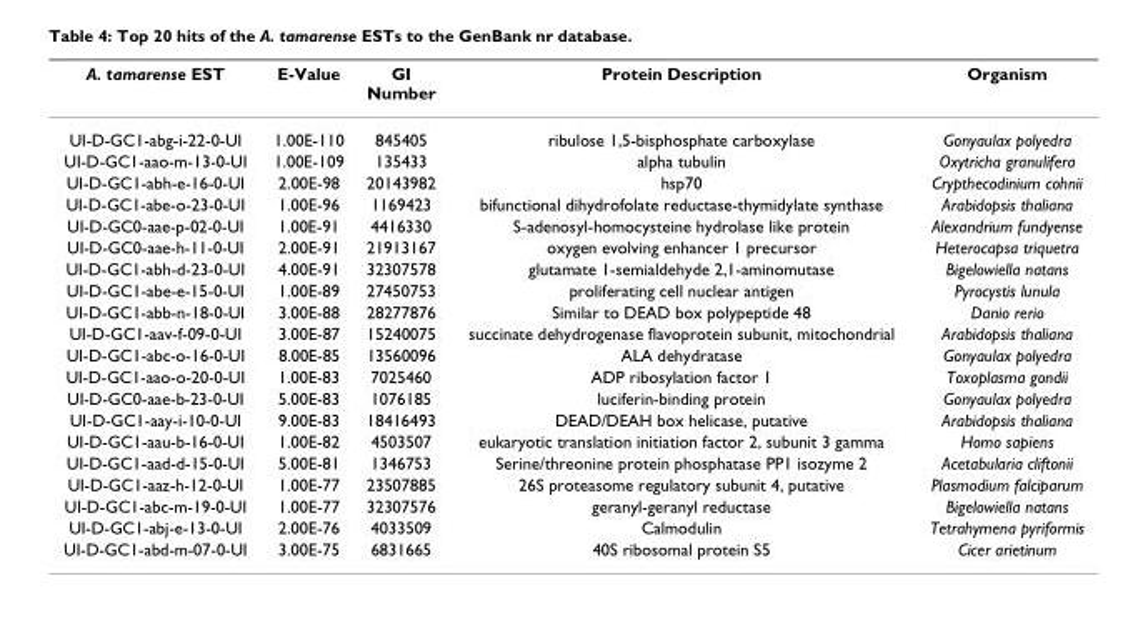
<table><thead><tr><td>A. tamarense EST</td><td>E-Value</td><td>GI Number</td><td>Protein Description</td><td>Organism</td></tr></thead><tbody><tr><td>UI-D-GC1-abg-i-22-0-UI</td><td>1.00E-110</td><td>845405</td><td>ribulose 1,5-bisphosphate carboxylase</td><td>Gonyaulax polyedra</td></tr><tr><td>UI-D-GC1-aao-m-13-0-UI</td><td>1.00E-109</td><td>135433</td><td>alpha tubulin</td><td>Oxytricha granulifera</td></tr><tr><td>UI-D-GC1-abh-e-16-0-UI</td><td>2.00E-98</td><td>20143982</td><td>hsp70</td><td>Crypthecodinium cohnii</td></tr><tr><td>UI-D-GC1-abe-o-23-0-UI</td><td>1.00E-96</td><td>1169423</td><td>bifunctional dihydrofolate reductase-thymidylate synthase</td><td>Arabidopsis thaliana</td></tr><tr><td>UI-D-GC0-aae-p-02-0-UI</td><td>1.00E-91</td><td>4416330</td><td>S-adenosyl-homocysteine hydrolase like protein</td><td>Alexandrium fundyense</td></tr><tr><td>UI-D-GC0-aae-h-11-0-UI</td><td>2.00E-91</td><td>21913167</td><td>oxygen evolving enhancer 1 precursor</td><td>Heterocapsa triquetra</td></tr><tr><td>UI-D-GC1-abh-d-23-0-UI</td><td>4.00E-91</td><td>32307578</td><td>glutamate 1-semialdehyde 2,1-aminomutase</td><td>Bigelowiella natans</td></tr><tr><td>UI-D-GC1-abe-e-15-0-UI</td><td>1.00E-89</td><td>27450753</td><td>proliferating cell nuclear antigen</td><td>Pyrocystis lunula</td></tr><tr><td>UI-D-GC1-abb-n-18-0-UI</td><td>3.00E-88</td><td>28277876</td><td>Similar to DEAD box polypeptide 48</td><td>Danio rerio</td></tr><tr><td>UI-D-GC1-aav-f-09-0-UI</td><td>3.00E-87</td><td>15240075</td><td>succinate dehydrogenase flavoprotein subunit, mitochondrial</td><td>Arabidopsis thaliana</td></tr><tr><td>UI-D-GC1-abc-o-16-0-UI</td><td>8.00E-85</td><td>13560096</td><td>ALA dehydratase</td><td>Gonyaulax polyedra</td></tr><tr><td>UI-D-GC1-aao-o-20-0-UI</td><td>1.00E-83</td><td>7025460</td><td>ADP ribosylation factor 1</td><td>Toxoplasma gondii</td></tr><tr><td>UI-D-GC0-aae-b-23-0-UI</td><td>5.00E-83</td><td>1076185</td><td>luciferin-binding protein</td><td>Gonyaulax polyedra</td></tr><tr><td>UI-D-GC1-aay-i-10-0-UI</td><td>9.00E-83</td><td>18416493</td><td>DEAD/DEAH box helicase, putative</td><td>Arabidopsis thaliana</td></tr><tr><td>UI-D-GC1-aau-b-16-0-UI</td><td>1.00E-82</td><td>4503507</td><td>eukaryotic translation initiation factor 2, subunit 3 gamma</td><td>Homo sapiens</td></tr><tr><td>UI-D-GC1-aad-d-15-0-UI</td><td>5.00E-81</td><td>1346753</td><td>Serine/threonine protein phosphatase PP1 isozyme 2</td><td>Acetabularia cliftonii</td></tr><tr><td>UI-D-GC1-aaz-h-12-0-UI</td><td>1.00E-77</td><td>23507885</td><td>26S proteasome regulatory subunit 4, putative</td><td>Plasmodium falciparum</td></tr><tr><td>UI-D-GC1-abc-m-19-0-UI</td><td>1.00E-77</td><td>32307576</td><td>geranyl-geranyl reductase</td><td>Bigelowiella natans</td></tr><tr><td>UI-D-GC1-abj-e-13-0-UI</td><td>2.00E-76</td><td>4033509</td><td>Calmodulin</td><td>Tetrahymena pyriformis</td></tr><tr><td>UI-D-GC1-abd-m-07-0-UI</td><td>3.00E-75</td><td>6831665</td><td>40S ribosomal protein S5</td><td>Cicer arietinum</td></tr></tbody></table>